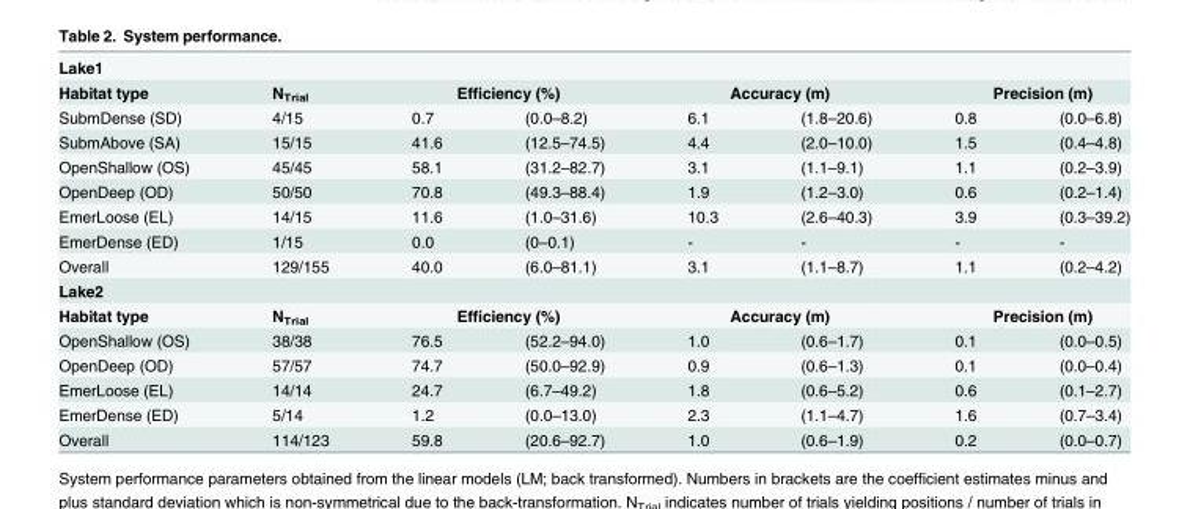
<table><tbody><tr><td colspan="8">Lake1</td></tr><tr><td>Habitat type</td><td>N<sub>Trial</sub></td><td colspan="2">Efficiency (%)</td><td colspan="2">Accuracy (m)</td><td colspan="2">Precision (m)</td></tr><tr><td>SubmDense (SD)</td><td>4/15</td><td>0.7</td><td>(0.0–8.2)</td><td>6.1</td><td>(1.8–20.6)</td><td>0.8</td><td>(0.0–6.8)</td></tr><tr><td>SubmAbove (SA)</td><td>15/15</td><td>41.6</td><td>(12.5–74.5)</td><td>4.4</td><td>(2.0–10.0)</td><td>1.5</td><td>(0.4–4.8)</td></tr><tr><td>OpenShallow (OS)</td><td>45/45</td><td>58.1</td><td>(31.2–82.7)</td><td>3.1</td><td>(1.1–9.1)</td><td>1.1</td><td>(0.2–3.9)</td></tr><tr><td>OpenDeep (OD)</td><td>50/50</td><td>70.8</td><td>(49.3–88.4)</td><td>1.9</td><td>(1.2–3.0)</td><td>0.6</td><td>(0.2–1.4)</td></tr><tr><td>EmerLoose (EL)</td><td>14/15</td><td>11.6</td><td>(1.0–31.6)</td><td>10.3</td><td>(2.6–40.3)</td><td>3.9</td><td>(0.3–39.2)</td></tr><tr><td>EmerDense (ED)</td><td>1/15</td><td>0.0</td><td>(0–0.1)</td><td>-</td><td>-</td><td>-</td><td>-</td></tr><tr><td>Overall</td><td>129/155</td><td>40.0</td><td>(6.0–81.1)</td><td>3.1</td><td>(1.1–8.7)</td><td>1.1</td><td>(0.2–4.2)</td></tr><tr><td colspan="8">Lake2</td></tr><tr><td>Habitat type</td><td>N<sub>Trial</sub></td><td colspan="2">Efficiency (%)</td><td colspan="2">Accuracy (m)</td><td colspan="2">Precision (m)</td></tr><tr><td>OpenShallow (OS)</td><td>38/38</td><td>76.5</td><td>(52.2–94.0)</td><td>1.0</td><td>(0.6–1.7)</td><td>0.1</td><td>(0.0–0.5)</td></tr><tr><td>OpenDeep (OD)</td><td>57/57</td><td>74.7</td><td>(50.0–92.9)</td><td>0.9</td><td>(0.6–1.3)</td><td>0.1</td><td>(0.0–0.4)</td></tr><tr><td>EmerLoose (EL)</td><td>14/14</td><td>24.7</td><td>(6.7–49.2)</td><td>1.8</td><td>(0.6–5.2)</td><td>0.6</td><td>(0.1–2.7)</td></tr><tr><td>EmerDense (ED)</td><td>5/14</td><td>1.2</td><td>(0.0–13.0)</td><td>2.3</td><td>(1.1–4.7)</td><td>1.6</td><td>(0.7–3.4)</td></tr><tr><td>Overall</td><td>114/123</td><td>59.8</td><td>(20.6–92.7)</td><td>1.0</td><td>(0.6–1.9)</td><td>0.2</td><td>(0.0–0.7)</td></tr></tbody></table>